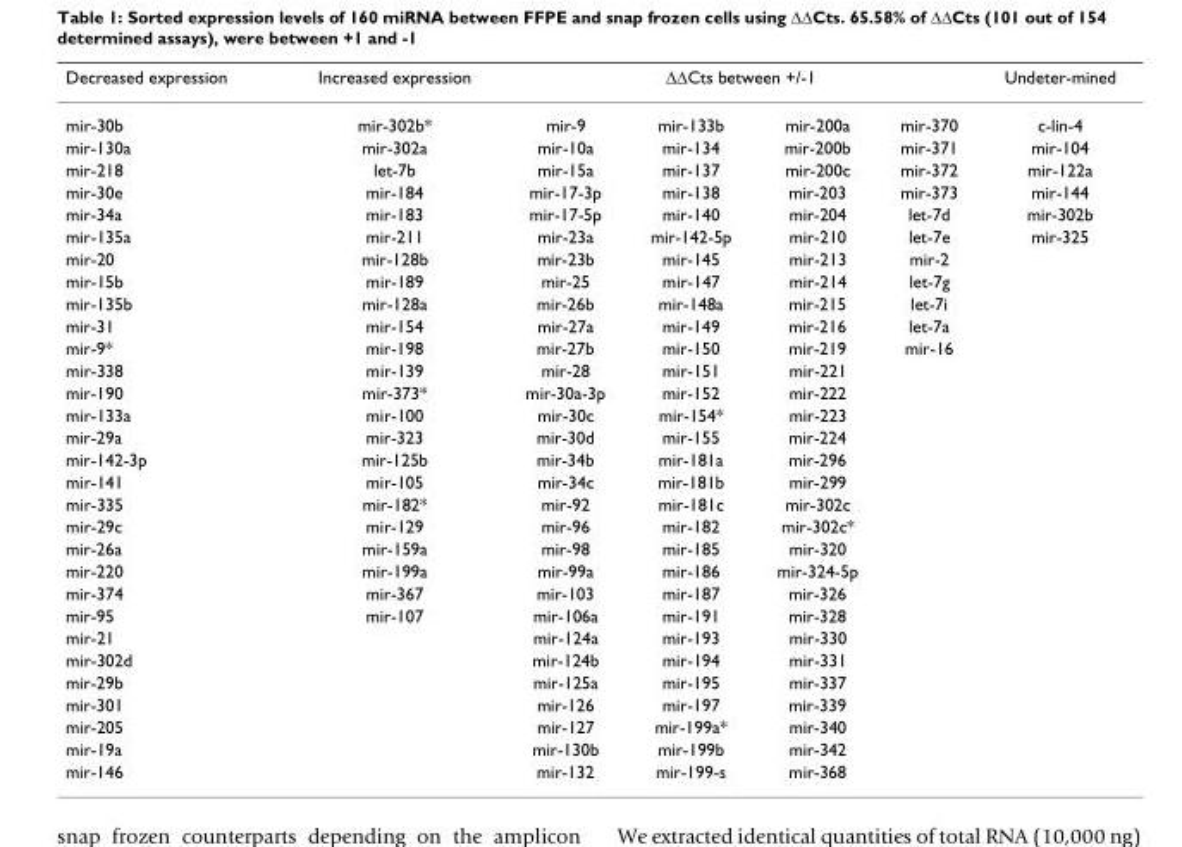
<table><thead><tr><td rowspan="2">Decreased expression mir-30b</td><td rowspan="2">Increased expression mir-302b*</td><td colspan="4">∆∆Cts between +/-1</td><td rowspan="2">Undeter-mined c-lin-4</td></tr><tr><td>mir-9</td><td>mir-133b</td><td>mir-200a</td><td>mir-370</td></tr></thead><tbody><tr><td>mir-130a</td><td>mir-302a</td><td>mir-10a</td><td>mir-134</td><td>mir-200b</td><td>mir-371</td><td>mir-104</td></tr><tr><td>mir-218</td><td>let-7b</td><td>mir-15a</td><td>mir-137</td><td>mir-200c</td><td>mir-372</td><td>mir-122a</td></tr><tr><td>mir-30e</td><td>mir-184</td><td>mir-17-3p</td><td>mir-138</td><td>mir-203</td><td>mir-373</td><td>mir-144</td></tr><tr><td>mir-34a</td><td>mir-183</td><td>mir-17-5p</td><td>mir-140</td><td>mir-204</td><td>let-7d</td><td>mir-302b</td></tr><tr><td>mir-135a</td><td>mir-211</td><td>mir-23a</td><td>mir-142-5p</td><td>mir-210</td><td>let-7e</td><td>mir-325</td></tr><tr><td>mir-20</td><td>mir-128b</td><td>mir-23b</td><td>mir-145</td><td>mir-213</td><td>mir-2</td><td></td></tr><tr><td>mir-15b</td><td>mir-189</td><td>mir-25</td><td>mir-147</td><td>mir-214</td><td>let-7g</td><td></td></tr><tr><td>mir-135b</td><td>mir-128a</td><td>mir-26b</td><td>mir-148a</td><td>mir-215</td><td>let-7i</td><td></td></tr><tr><td>mir-31</td><td>mir-154</td><td>mir-27a</td><td>mir-149</td><td>mir-216</td><td>let-7a</td><td></td></tr><tr><td>mir-9*</td><td>mir-198</td><td>mir-27b</td><td>mir-150</td><td>mir-219</td><td>mir-16</td><td></td></tr><tr><td>mir-338</td><td>mir-139</td><td>mir-28</td><td>mir-151</td><td>mir-221</td><td></td><td></td></tr><tr><td>mir-190</td><td>mir-373*</td><td>mir-30a-3p</td><td>mir-152</td><td>mir-222</td><td></td><td></td></tr><tr><td>mir-133a</td><td>mir-100</td><td>mir-30c</td><td>mir-154*</td><td>mir-223</td><td></td><td></td></tr><tr><td>mir-29a</td><td>mir-323</td><td>mir-30d</td><td>mir-155</td><td>mir-224</td><td></td><td></td></tr><tr><td>mir-142-3p</td><td>mir-125b</td><td>mir-34b</td><td>mir-181a</td><td>mir-296</td><td></td><td></td></tr><tr><td>mir-141</td><td>mir-105</td><td>mir-34c</td><td>mir-181b</td><td>mir-299</td><td></td><td></td></tr><tr><td>mir-335</td><td>mir-182*</td><td>mir-92</td><td>mir-181c</td><td>mir-302c</td><td></td><td></td></tr><tr><td>mir-29c</td><td>mir-129</td><td>mir-96</td><td>mir-182</td><td>mir-302c*</td><td></td><td></td></tr><tr><td>mir-26a</td><td>mir-159a</td><td>mir-98</td><td>mir-185</td><td>mir-320</td><td></td><td></td></tr><tr><td>mir-220</td><td>mir-199a</td><td>mir-99a</td><td>mir-186</td><td>mir-324-5p</td><td></td><td></td></tr><tr><td>mir-374</td><td>mir-367</td><td>mir-103</td><td>mir-187</td><td>mir-326</td><td></td><td></td></tr><tr><td>mir-95</td><td>mir-107</td><td>mir-106a</td><td>mir-191</td><td>mir-328</td><td></td><td></td></tr><tr><td>mir-21</td><td></td><td>mir-124a</td><td>mir-193</td><td>mir-330</td><td></td><td></td></tr><tr><td>mir-302d</td><td></td><td>mir-124b</td><td>mir-194</td><td>mir-331</td><td></td><td></td></tr><tr><td>mir-29b</td><td></td><td>mir-125a</td><td>mir-195</td><td>mir-337</td><td></td><td></td></tr><tr><td>mir-301</td><td></td><td>mir-126</td><td>mir-197</td><td>mir-339</td><td></td><td></td></tr><tr><td>mir-205</td><td></td><td>mir-127</td><td>mir-199a*</td><td>mir-340</td><td></td><td></td></tr><tr><td>mir-19a</td><td></td><td>mir-130b</td><td>mir-199b</td><td>mir-342</td><td></td><td></td></tr><tr><td>mir-146</td><td></td><td>mir-132</td><td>mir-199-s</td><td>mir-368</td><td></td><td></td></tr></tbody></table>